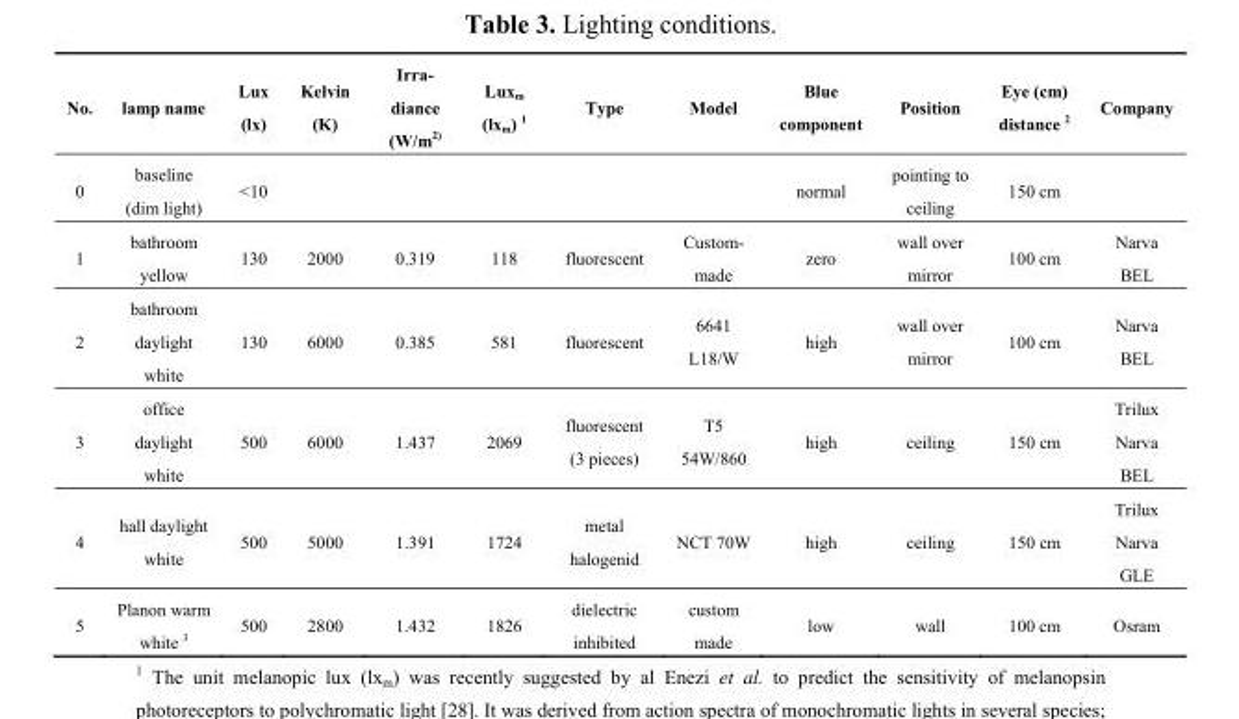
<table><thead><tr><td>No.</td><td>lamp name</td><td>Lux (lx)</td><td>Kelvin (K)</td><td>Irra- diance (W/m2)</td><td>Lux<sub>m</sub> (lx<sub>m</sub>) 1</td><td>Type</td><td>Model</td><td>Blue component</td><td>Position</td><td>Eye (cm) distance 2</td><td>Company</td></tr></thead><tbody><tr><td>0</td><td>baseline (dim light)</td><td>&lt;10</td><td></td><td></td><td></td><td></td><td></td><td>normal</td><td>pointing to ceiling</td><td>150 cm</td><td></td></tr><tr><td>1</td><td>bathroom yellow</td><td>130</td><td>2000</td><td>0.319</td><td>118</td><td>fluorescent</td><td>Custom- made</td><td>zero</td><td>wall over mirror</td><td>100 cm</td><td>Narva BEL</td></tr><tr><td>2</td><td>bathroom daylight white</td><td>130</td><td>6000</td><td>0.385</td><td>581</td><td>fluorescent</td><td>6641 L18/W</td><td>high</td><td>wall over mirror</td><td>100 cm</td><td>Narva BEL</td></tr><tr><td>3</td><td>office daylight white</td><td>500</td><td>6000</td><td>1.437</td><td>2069</td><td>fluorescent (3 pieces)</td><td>T5 54W/860</td><td>high</td><td>ceiling</td><td>150 cm</td><td>Trilux Narva BEL</td></tr><tr><td>4</td><td>hall daylight white</td><td>500</td><td>5000</td><td>1.391</td><td>1724</td><td>metal halogenid</td><td>NCT 70W</td><td>high</td><td>ceiling</td><td>150 cm</td><td>Trilux Narva GLE</td></tr><tr><td>5</td><td>Planon warm white 3</td><td>500</td><td>2800</td><td>1.432</td><td>1826</td><td>dielectric inhibited</td><td>custom made</td><td>low</td><td>wall</td><td>100 cm</td><td>Osram</td></tr></tbody></table>